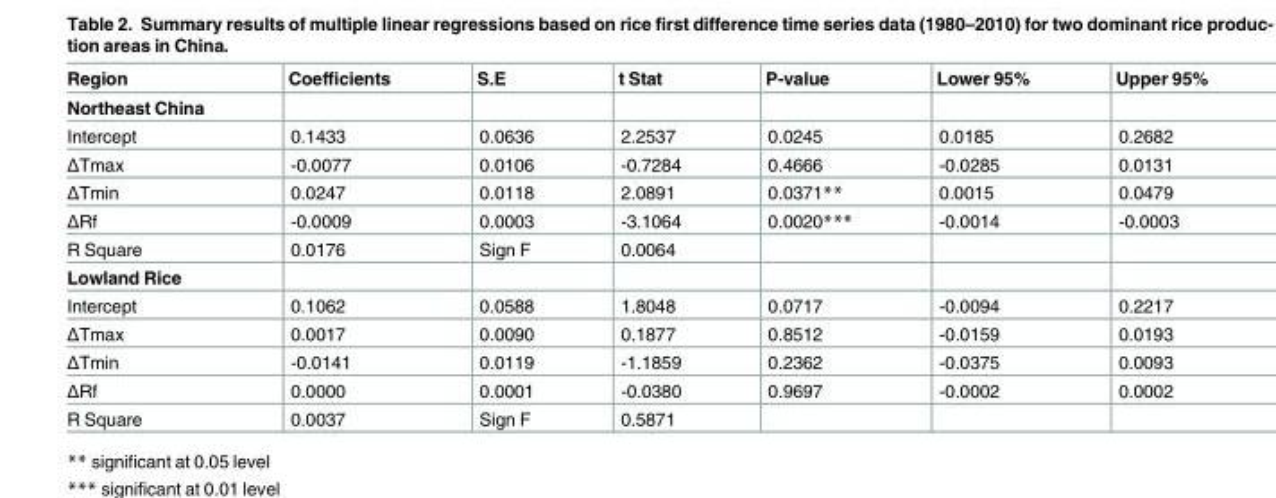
<table><thead><tr><td>Region</td><td>Coefficients</td><td>S.E</td><td>t Stat</td><td>P-value</td><td>Lower 95%</td><td>Upper 95%</td></tr></thead><tbody><tr><td colspan="7">Northeast China</td></tr><tr><td>Intercept</td><td>0.1433</td><td>0.0636</td><td>2.2537</td><td>0.0245</td><td>0.0185</td><td>0.2682</td></tr><tr><td>ΔTmax</td><td>-0.0077</td><td>0.0106</td><td>-0.7284</td><td>0.4666</td><td>-0.0285</td><td>0.0131</td></tr><tr><td>ΔTmin</td><td>0.0247</td><td>0.0118</td><td>2.0891</td><td>0.0371**</td><td>0.0015</td><td>0.0479</td></tr><tr><td>ΔRf</td><td>-0.0009</td><td>0.0003</td><td>-3.1064</td><td>0.0020***</td><td>-0.0014</td><td>-0.0003</td></tr><tr><td>R Square</td><td>0.0176</td><td>Sign F</td><td>0.0064</td><td></td><td></td><td></td></tr><tr><td colspan="7">Lowland Rice</td></tr><tr><td>Intercept</td><td>0.1062</td><td>0.0588</td><td>1.8048</td><td>0.0717</td><td>-0.0094</td><td>0.2217</td></tr><tr><td>ΔTmax</td><td>0.0017</td><td>0.0090</td><td>0.1877</td><td>0.8512</td><td>-0.0159</td><td>0.0193</td></tr><tr><td>ΔTmin</td><td>-0.0141</td><td>0.0119</td><td>-1.1859</td><td>0.2362</td><td>-0.0375</td><td>0.0093</td></tr><tr><td>ΔRf</td><td>0.0000</td><td>0.0001</td><td>-0.0380</td><td>0.9697</td><td>-0.0002</td><td>0.0002</td></tr><tr><td>R Square</td><td>0.0037</td><td>Sign F</td><td>0.5871</td><td></td><td></td><td></td></tr></tbody></table>